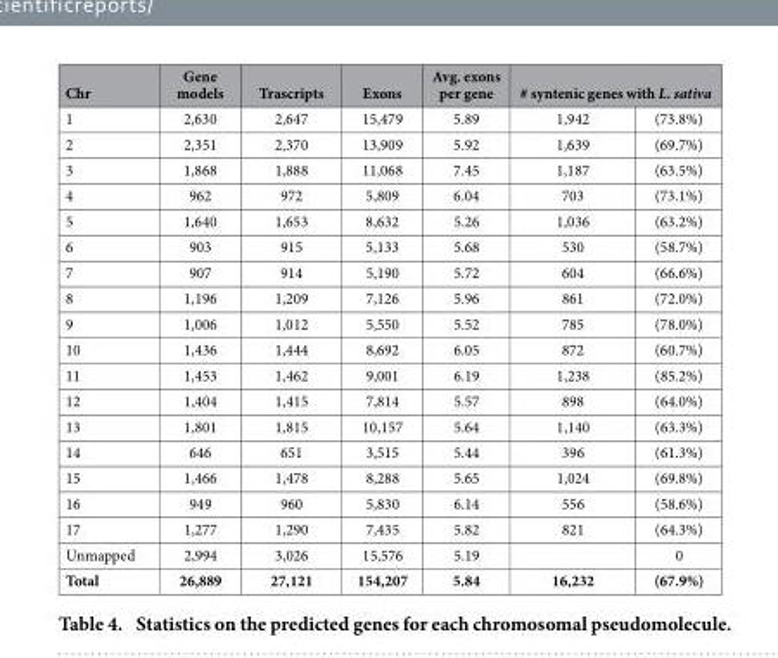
<table><thead><tr><td rowspan="2">Chr 1</td><td rowspan="2">Gene models 2,630</td><td rowspan="2">Trascripts 2,647</td><td rowspan="2">Exons 15,479</td><td rowspan="2">Avg. exons per gene 5.89</td><td colspan="2"># syntenic genes with L. sativa</td></tr><tr><td>1,942</td><td>(73.8%)</td></tr></thead><tbody><tr><td>2</td><td>2,351</td><td>2,370</td><td>13,909</td><td>5.92</td><td>1,639</td><td>(69.7%)</td></tr><tr><td>3</td><td>1,868</td><td>1,888</td><td>11,068</td><td>7.45</td><td>1,187</td><td>(63.5%)</td></tr><tr><td>4</td><td>962</td><td>972</td><td>5,809</td><td>6.04</td><td>703</td><td>(73.1%)</td></tr><tr><td>5</td><td>1,640</td><td>1,653</td><td>8,632</td><td>5.26</td><td>1,036</td><td>(63.2%)</td></tr><tr><td>6</td><td>903</td><td>915</td><td>5,133</td><td>5.68</td><td>530</td><td>(58.7%)</td></tr><tr><td>7</td><td>907</td><td>914</td><td>5,190</td><td>5.72</td><td>604</td><td>(66.6%)</td></tr><tr><td>8</td><td>1,196</td><td>1,209</td><td>7,126</td><td>5.96</td><td>861</td><td>(72.0%)</td></tr><tr><td>9</td><td>1,006</td><td>1,012</td><td>5,550</td><td>5.52</td><td>785</td><td>(78.0%)</td></tr><tr><td>10</td><td>1,436</td><td>1,444</td><td>8,692</td><td>6.05</td><td>872</td><td>(60.7%)</td></tr><tr><td>11</td><td>1,453</td><td>1,462</td><td>9,001</td><td>6.19</td><td>1,238</td><td>(85.2%)</td></tr><tr><td>12</td><td>1,404</td><td>1,415</td><td>7,814</td><td>5.57</td><td>898</td><td>(64.0%)</td></tr><tr><td>13</td><td>1,801</td><td>1,815</td><td>10,157</td><td>5.64</td><td>1,140</td><td>(63.3%)</td></tr><tr><td>14</td><td>646</td><td>651</td><td>3,515</td><td>5.44</td><td>396</td><td>(61.3%)</td></tr><tr><td>15</td><td>1,466</td><td>1,478</td><td>8,288</td><td>5.65</td><td>1,024</td><td>(69.8%)</td></tr><tr><td>16</td><td>949</td><td>960</td><td>5,830</td><td>6.14</td><td>556</td><td>(58.6%)</td></tr><tr><td>17</td><td>1,277</td><td>1,290</td><td>7,435</td><td>5.82</td><td>821</td><td>(64.3%)</td></tr><tr><td>Unmapped</td><td>2,994</td><td>3,026</td><td>15,576</td><td>5.19</td><td></td><td>0</td></tr><tr><td>Total</td><td>26,889</td><td>27,121</td><td>154,207</td><td>5.84</td><td>16,232</td><td>(67.9%)</td></tr></tbody></table>